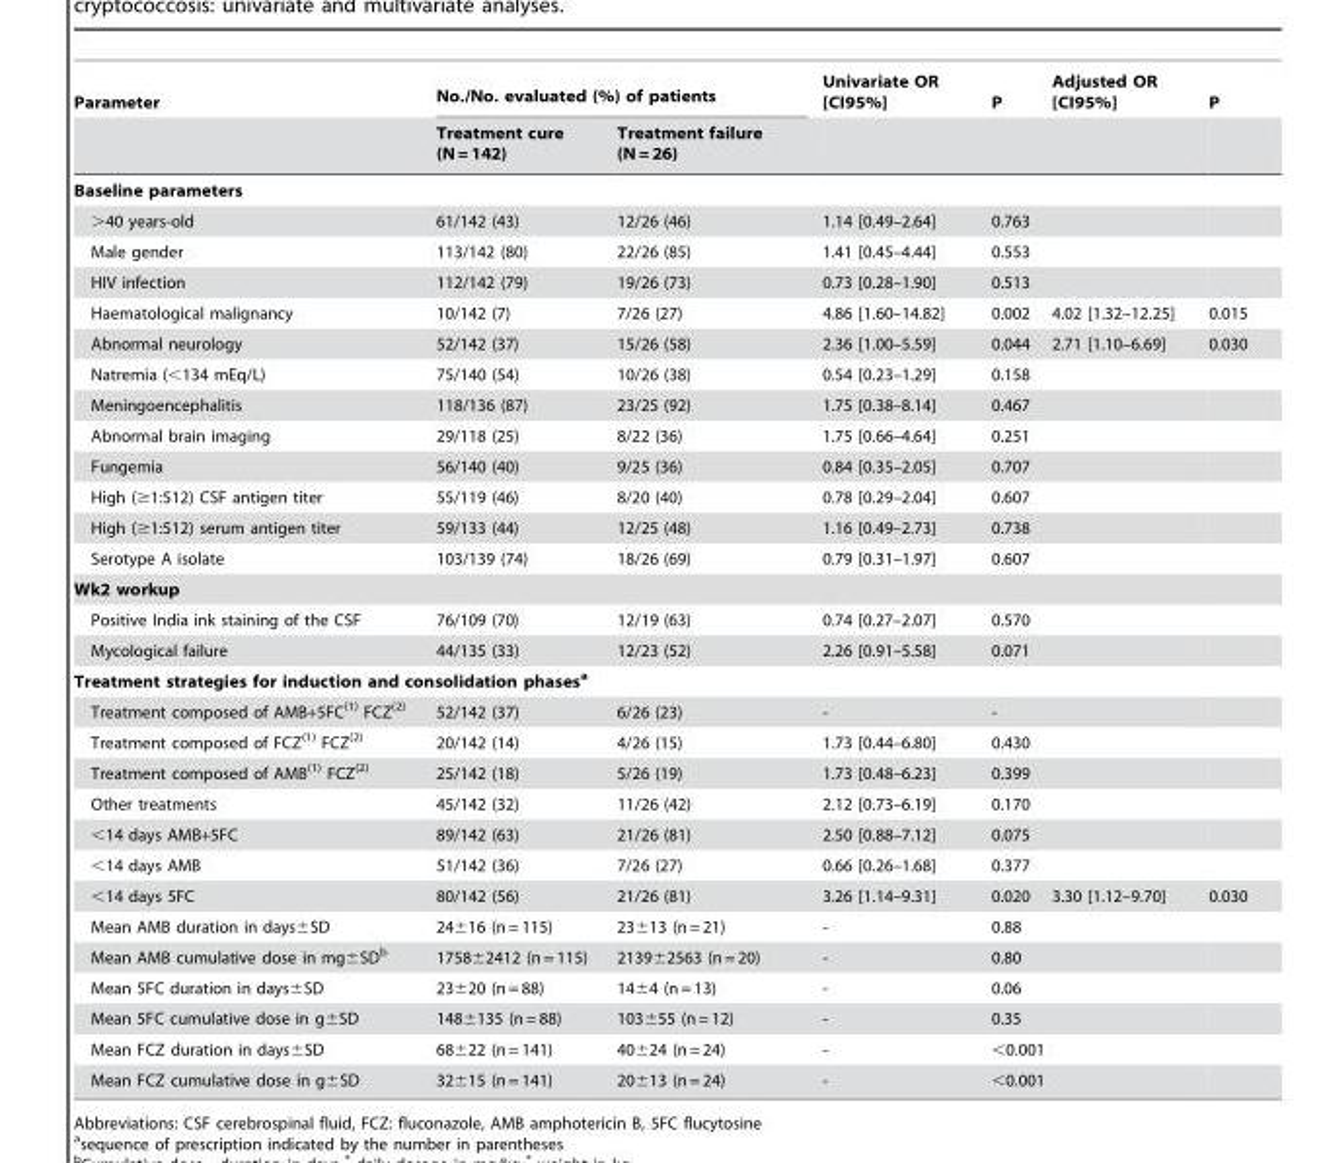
<table><thead><tr><td rowspan="2">Parameter</td><td colspan="2">No./No. evaluated (%) of patients</td><td rowspan="2">Univariate OR [CI95%]</td><td rowspan="2">P</td><td rowspan="2">Adjusted OR [CI95%]</td><td rowspan="2">P</td></tr><tr><td>Treatment cure (N = 142)</td><td>Treatment failure (N = 26)</td></tr></thead><tbody><tr><td colspan="7">Baseline parameters</td></tr><tr><td>&gt;40 years-old</td><td>61/142 (43)</td><td>12/26 (46)</td><td>1.14 [0.49–2.64]</td><td>0.763</td><td></td><td></td></tr><tr><td>Male gender</td><td>113/142 (80)</td><td>22/26 (85)</td><td>1.41 [0.45–4.44]</td><td>0.553</td><td></td><td></td></tr><tr><td>HIV infection</td><td>112/142 (79)</td><td>19/26 (73)</td><td>0.73 [0.28–1.90]</td><td>0.513</td><td></td><td></td></tr><tr><td>Haematological malignancy</td><td>10/142 (7)</td><td>7/26 (27)</td><td>4.86 [1.60–14.82]</td><td>0.002</td><td>4.02 [1.32–12.25]</td><td>0.015</td></tr><tr><td>Abnormal neurology</td><td>52/142 (37)</td><td>15/26 (58)</td><td>2.36 [1.00–5.59]</td><td>0.044</td><td>2.71 [1.10–6.69]</td><td>0.030</td></tr><tr><td>Natremia (&lt;134 mEq/L)</td><td>75/140 (54)</td><td>10/26 (38)</td><td>0.54 [0.23–1.29]</td><td>0.158</td><td></td><td></td></tr><tr><td>Meningoencephalitis</td><td>118/136 (87)</td><td>23/25 (92)</td><td>1.75 [0.38–8.14]</td><td>0.467</td><td></td><td></td></tr><tr><td>Abnormal brain imaging</td><td>29/118 (25)</td><td>8/22 (36)</td><td>1.75 [0.66–4.64]</td><td>0.251</td><td></td><td></td></tr><tr><td>Fungemia</td><td>56/140 (40)</td><td>9/25 (36)</td><td>0.84 [0.35–2.05]</td><td>0.707</td><td></td><td></td></tr><tr><td>High (≥1:512) CSF antigen titer</td><td>55/119 (46)</td><td>8/20 (40)</td><td>0.78 [0.29–2.04]</td><td>0.607</td><td></td><td></td></tr><tr><td>High (≥1:512) serum antigen titer</td><td>59/133 (44)</td><td>12/25 (48)</td><td>1.16 [0.49–2.73]</td><td>0.738</td><td></td><td></td></tr><tr><td>Serotype A isolate</td><td>103/139 (74)</td><td>18/26 (69)</td><td>0.79 [0.31–1.97]</td><td>0.607</td><td></td><td></td></tr><tr><td colspan="7">Wk2 workup</td></tr><tr><td>Positive India ink staining of the CSF</td><td>76/109 (70)</td><td>12/19 (63)</td><td>0.74 [0.27–2.07]</td><td>0.570</td><td></td><td></td></tr><tr><td>Mycological failure</td><td>44/135 (33)</td><td>12/23 (52)</td><td>2.26 [0.91–5.58]</td><td>0.071</td><td></td><td></td></tr><tr><td colspan="7">Treatment strategies for induction and consolidation phasesa</td></tr><tr><td>Treatment composed of AMB+5FC<sup>(1)</sup> FCZ<sup>(2)</sup></td><td>52/142 (37)</td><td>6/26 (23)</td><td>-</td><td>-</td><td></td><td></td></tr><tr><td>Treatment composed of FCZ<sup>(1)</sup> FCZ<sup>(2)</sup></td><td>20/142 (14)</td><td>4/26 (15)</td><td>1.73 [0.44–6.80]</td><td>0.430</td><td></td><td></td></tr><tr><td>Treatment composed of AMB<sup>(1)</sup> FCZ<sup>(2)</sup></td><td>25/142 (18)</td><td>5/26 (19)</td><td>1.73 [0.48–6.23]</td><td>0.399</td><td></td><td></td></tr><tr><td>Other treatments</td><td>45/142 (32)</td><td>11/26 (42)</td><td>2.12 [0.73–6.19]</td><td>0.170</td><td></td><td></td></tr><tr><td>&lt;14 days AMB+5FC</td><td>89/142 (63)</td><td>21/26 (81)</td><td>2.50 [0.88–7.12]</td><td>0.075</td><td></td><td></td></tr><tr><td>&lt;14 days AMB</td><td>51/142 (36)</td><td>7/26 (27)</td><td>0.66 [0.26–1.68]</td><td>0.377</td><td></td><td></td></tr><tr><td>&lt;14 days 5FC</td><td>80/142 (56)</td><td>21/26 (81)</td><td>3.26 [1.14–9.31]</td><td>0.020</td><td>3.30 [1.12–9.70]</td><td>0.030</td></tr><tr><td>Mean AMB duration in days±SD</td><td>24±16 (n = 115)</td><td>23±13 (n = 21)</td><td>-</td><td>0.88</td><td></td><td></td></tr><tr><td>Mean AMB cumulative dose in mg±SD<sup>b</sup></td><td>1758±2412 (n = 115)</td><td>2139±2563 (n = 20)</td><td>-</td><td>0.80</td><td></td><td></td></tr><tr><td>Mean 5FC duration in days±SD</td><td>23±20 (n = 88)</td><td>14±4 (n = 13)</td><td>-</td><td>0.06</td><td></td><td></td></tr><tr><td>Mean 5FC cumulative dose in g±SD</td><td>148±135 (n = 88)</td><td>103±55 (n = 12)</td><td>-</td><td>0.35</td><td></td><td></td></tr><tr><td>Mean FCZ duration in days±SD</td><td>68±22 (n = 141)</td><td>40±24 (n = 24)</td><td>-</td><td>&lt;0.001</td><td></td><td></td></tr><tr><td>Mean FCZ cumulative dose in g±SD</td><td>32±15 (n = 141)</td><td>20±13 (n = 24)</td><td>-</td><td>&lt;0.001</td><td></td><td></td></tr></tbody></table>